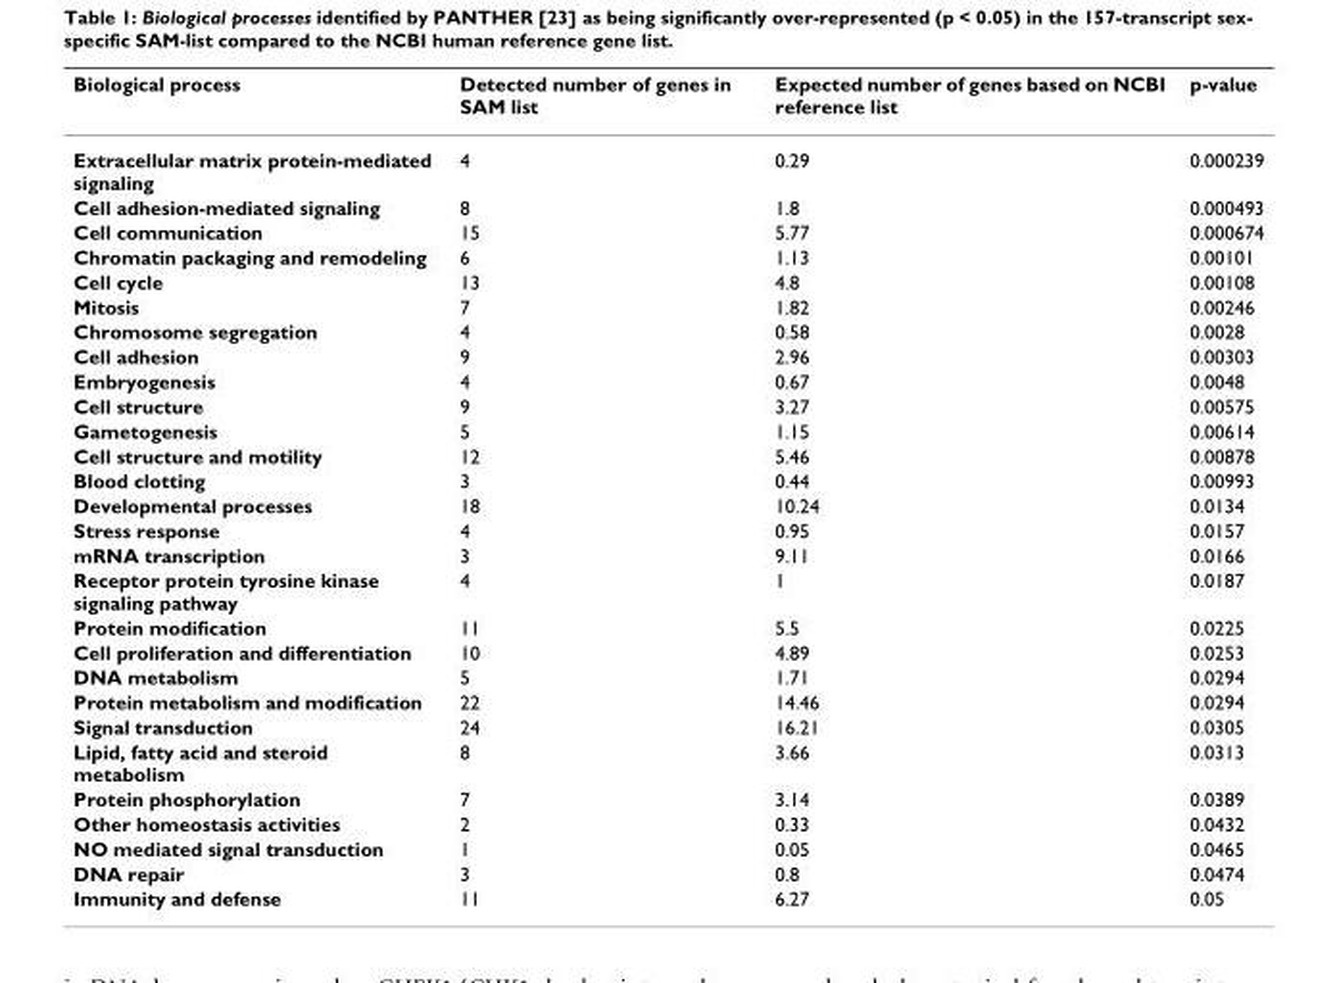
<table><thead><tr><td>Biological process</td><td>Detected number of genes in SAM list</td><td>Expected number of genes based on NCBI reference list</td><td>p-value</td></tr></thead><tbody><tr><td>Extracellular matrix protein-mediated signaling</td><td>4</td><td>0.29</td><td>0.000239</td></tr><tr><td>Cell adhesion-mediated signaling</td><td>8</td><td>1.8</td><td>0.000493</td></tr><tr><td>Cell communication</td><td>15</td><td>5.77</td><td>0.000674</td></tr><tr><td>Chromatin packaging and remodeling</td><td>6</td><td>1.13</td><td>0.00101</td></tr><tr><td>Cell cycle</td><td>13</td><td>4.8</td><td>0.00108</td></tr><tr><td>Mitosis</td><td>7</td><td>1.82</td><td>0.00246</td></tr><tr><td>Chromosome segregation</td><td>4</td><td>0.58</td><td>0.0028</td></tr><tr><td>Cell adhesion</td><td>9</td><td>2.96</td><td>0.00303</td></tr><tr><td>Embryogenesis</td><td>4</td><td>0.67</td><td>0.0048</td></tr><tr><td>Cell structure</td><td>9</td><td>3.27</td><td>0.00575</td></tr><tr><td>Gametogenesis</td><td>5</td><td>1.15</td><td>0.00614</td></tr><tr><td>Cell structure and motility</td><td>12</td><td>5.46</td><td>0.00878</td></tr><tr><td>Blood clotting</td><td>3</td><td>0.44</td><td>0.00993</td></tr><tr><td>Developmental processes</td><td>18</td><td>10.24</td><td>0.0134</td></tr><tr><td>Stress response</td><td>4</td><td>0.95</td><td>0.0157</td></tr><tr><td>mRNA transcription</td><td>3</td><td>9.11</td><td>0.0166</td></tr><tr><td>Receptor protein tyrosine kinase signaling pathway</td><td>4</td><td>1</td><td>0.0187</td></tr><tr><td>Protein modification</td><td>11</td><td>5.5</td><td>0.0225</td></tr><tr><td>Cell proliferation and differentiation</td><td>10</td><td>4.89</td><td>0.0253</td></tr><tr><td>DNA metabolism</td><td>5</td><td>1.71</td><td>0.0294</td></tr><tr><td>Protein metabolism and modification</td><td>22</td><td>14.46</td><td>0.0294</td></tr><tr><td>Signal transduction</td><td>24</td><td>16.21</td><td>0.0305</td></tr><tr><td>Lipid, fatty acid and steroid metabolism</td><td>8</td><td>3.66</td><td>0.0313</td></tr><tr><td>Protein phosphorylation</td><td>7</td><td>3.14</td><td>0.0389</td></tr><tr><td>Other homeostasis activities</td><td>2</td><td>0.33</td><td>0.0432</td></tr><tr><td>NO mediated signal transduction</td><td>1</td><td>0.05</td><td>0.0465</td></tr><tr><td>DNA repair</td><td>3</td><td>0.8</td><td>0.0474</td></tr><tr><td>Immunity and defense</td><td>11</td><td>6.27</td><td>0.05</td></tr></tbody></table>